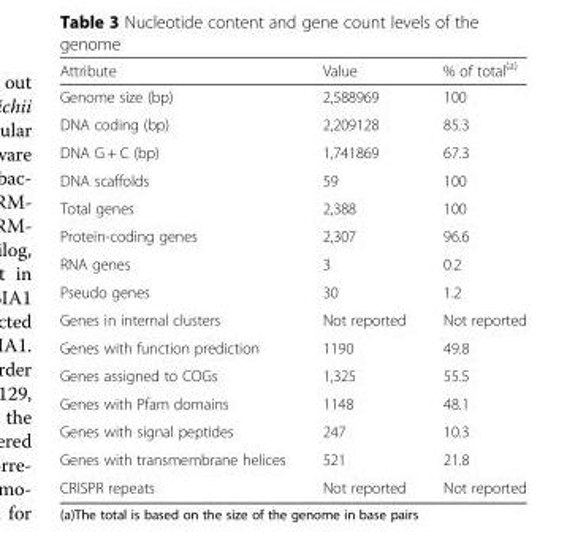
<table><thead><tr><td>Attribute</td><td>Value</td><td>% of total<sup>(a)</sup></td></tr></thead><tbody><tr><td>Genome size (bp)</td><td>2,588969</td><td>100</td></tr><tr><td>DNA coding (bp)</td><td>2,209128</td><td>85.3</td></tr><tr><td>DNA G + C (bp)</td><td>1,741869</td><td>67.3</td></tr><tr><td>DNA scaffolds</td><td>59</td><td>100</td></tr><tr><td>Total genes</td><td>2,388</td><td>100</td></tr><tr><td>Protein-coding genes</td><td>2,307</td><td>96.6</td></tr><tr><td>RNA genes</td><td>3</td><td>0.2</td></tr><tr><td>Pseudo genes</td><td>30</td><td>1.2</td></tr><tr><td>Genes in internal clusters</td><td>Not reported</td><td>Not reported</td></tr><tr><td>Genes with function prediction</td><td>1190</td><td>49.8</td></tr><tr><td>Genes assigned to COGs</td><td>1,325</td><td>55.5</td></tr><tr><td>Genes with Pfam domains</td><td>1148</td><td>48.1</td></tr><tr><td>Genes with signal peptides</td><td>247</td><td>10.3</td></tr><tr><td>Genes with transmembrane helices</td><td>521</td><td>21.8</td></tr><tr><td>CRISPR repeats</td><td>Not reported</td><td>Not reported</td></tr></tbody></table>